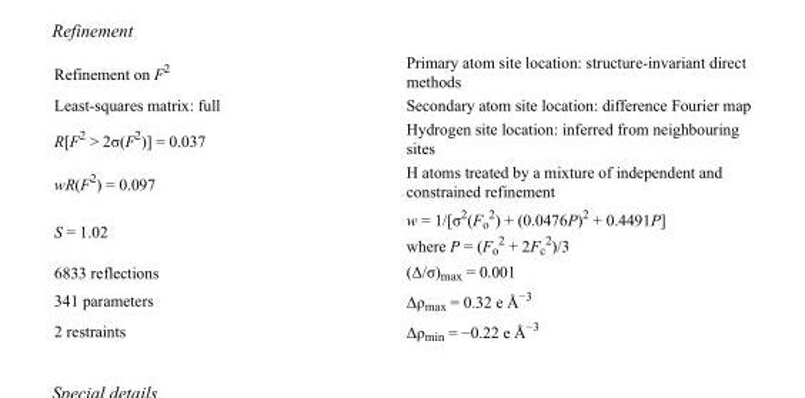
<table><tbody><tr><td>Refinement on F<sup>2</sup></td><td>Primary atom site location: structure-invariant direct methods</td></tr><tr><td>Least-squares matrix: full</td><td>Secondary atom site location: difference Fourier map</td></tr><tr><td>R[F<sup>2</sup> &gt; 2σ(F<sup>2</sup>)] = 0.037</td><td>Hydrogen site location: inferred from neighbouring sites</td></tr><tr><td>wR(F<sup>2</sup>) = 0.097</td><td>H atoms treated by a mixture of independent and constrained refinement</td></tr><tr><td>S = 1.02</td><td>w = 1/[σ<sup>2</sup>(F<sub>o</sub> <sup>2</sup>) + (0.0476P)<sup>2</sup> + 0.4491P] where P = (F<sub>o</sub> <sup>2</sup> + 2F<sub>c</sub> <sup>2</sup>)/3</td></tr><tr><td>6833 reflections</td><td>(Δ/σ)<sub>max</sub> = 0.001</td></tr><tr><td>341 parameters</td><td>Δρ<sub>max</sub> = 0.32 e Å<sup>−3</sup></td></tr><tr><td>2 restraints</td><td>Δρ<sub>min</sub> = −0.22 e Å<sup>−3</sup></td></tr></tbody></table>